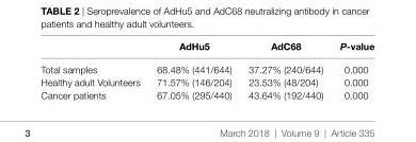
<table><thead><tr><td></td><td>adhu5</td><td>adc68</td><td>P-value</td></tr></thead><tbody><tr><td>Total samples</td><td>68.48% (441/644)</td><td>37.27% (240/644)</td><td>0.000</td></tr><tr><td>Healthy adult Volunteers</td><td>71.57% (146/204)</td><td>23.53% (48/204)</td><td>0.000</td></tr><tr><td>Cancer patients</td><td>67.05% (295/440)</td><td>43.64% (192/440)</td><td>0.000</td></tr></tbody></table>